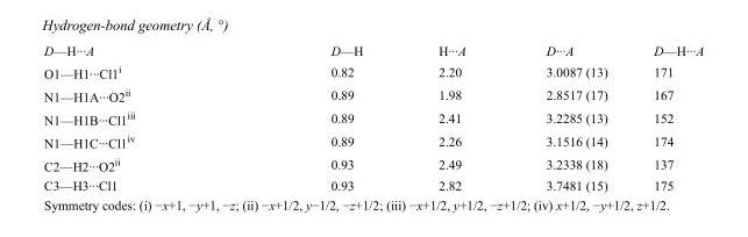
<table><tbody><tr><td>D—H···A</td><td>D—H</td><td>H···A</td><td>D···A</td><td>D—H···A</td></tr><tr><td>O1—H1···Cl1<sup>i</sup></td><td>0.82</td><td>2.20</td><td>3.0087 (13)</td><td>171</td></tr><tr><td>N1—H1A···O2<sup>ii</sup></td><td>0.89</td><td>1.98</td><td>2.8517 (17)</td><td>167</td></tr><tr><td>N1—H1B···Cl1<sup>iii</sup></td><td>0.89</td><td>2.41</td><td>3.2285 (13)</td><td>152</td></tr><tr><td>N1—H1C···Cl1<sup>iv</sup></td><td>0.89</td><td>2.26</td><td>3.1516 (14)</td><td>174</td></tr><tr><td>C2—H2···O2<sup>ii</sup></td><td>0.93</td><td>2.49</td><td>3.2338 (18)</td><td>137</td></tr><tr><td>C3—H3···Cl1</td><td>0.93</td><td>2.82</td><td>3.7481 (15)</td><td>175</td></tr></tbody></table>